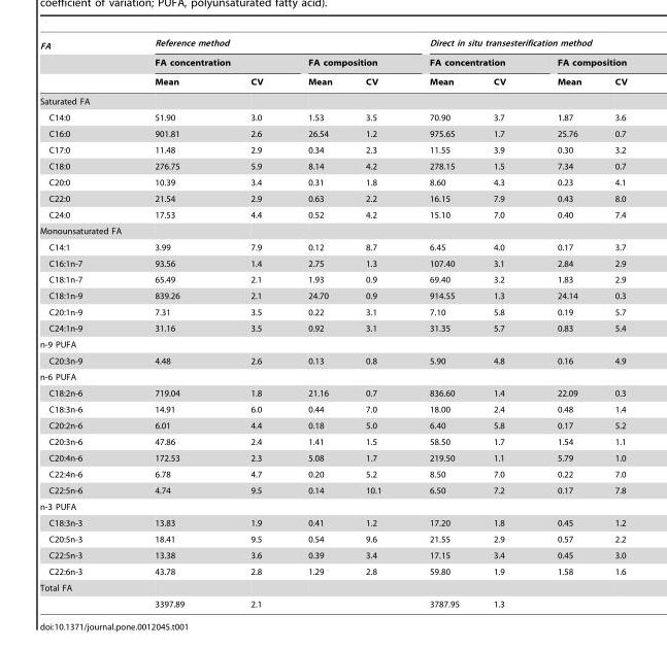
<table><thead><tr><td rowspan="3">FA</td><td colspan="4">Reference method</td><td colspan="4">Direct in situ transesterification method</td></tr><tr><td colspan="2">FA concentration</td><td colspan="2">FA composition</td><td colspan="2">FA concentration</td><td colspan="2">FA composition</td></tr><tr><td>Mean</td><td>CV</td><td>Mean</td><td>CV</td><td>Mean</td><td>CV</td><td>Mean</td><td>CV</td></tr></thead><tbody><tr><td colspan="9">Saturated FA</td></tr><tr><td>C14:0</td><td>51.90</td><td>3.0</td><td>1.53</td><td>3.5</td><td>70.90</td><td>3.7</td><td>1.87</td><td>3.6</td></tr><tr><td>C16:0</td><td>901.81</td><td>2.6</td><td>26.54</td><td>1.2</td><td>975.65</td><td>1.7</td><td>25.76</td><td>0.7</td></tr><tr><td>C17:0</td><td>11.48</td><td>2.9</td><td>0.34</td><td>2.3</td><td>11.55</td><td>3.9</td><td>0.30</td><td>3.2</td></tr><tr><td>C18:0</td><td>276.75</td><td>5.9</td><td>8.14</td><td>4.2</td><td>278.15</td><td>1.5</td><td>7.34</td><td>0.7</td></tr><tr><td>C20:0</td><td>10.39</td><td>3.4</td><td>0.31</td><td>1.8</td><td>8.60</td><td>4.3</td><td>0.23</td><td>4.1</td></tr><tr><td>C22:0</td><td>21.54</td><td>2.9</td><td>0.63</td><td>2.2</td><td>16.15</td><td>7.9</td><td>0.43</td><td>8.0</td></tr><tr><td>C24:0</td><td>17.53</td><td>4.4</td><td>0.52</td><td>4.2</td><td>15.10</td><td>7.0</td><td>0.40</td><td>7.4</td></tr><tr><td colspan="9">Monounsaturated FA</td></tr><tr><td>C14:1</td><td>3.99</td><td>7.9</td><td>0.12</td><td>8.7</td><td>6.45</td><td>4.0</td><td>0.17</td><td>3.7</td></tr><tr><td>C16:1n-7</td><td>93.56</td><td>1.4</td><td>2.75</td><td>1.3</td><td>107.40</td><td>3.1</td><td>2.84</td><td>2.9</td></tr><tr><td>C18:1n-7</td><td>65.49</td><td>2.1</td><td>1.93</td><td>0.9</td><td>69.40</td><td>3.2</td><td>1.83</td><td>2.9</td></tr><tr><td>C18:1n-9</td><td>839.26</td><td>2.1</td><td>24.70</td><td>0.9</td><td>914.55</td><td>1.3</td><td>24.14</td><td>0.3</td></tr><tr><td>C20:1n-9</td><td>7.31</td><td>3.5</td><td>0.22</td><td>3.1</td><td>7.10</td><td>5.8</td><td>0.19</td><td>5.7</td></tr><tr><td>C24:1n-9</td><td>31.16</td><td>3.5</td><td>0.92</td><td>3.1</td><td>31.35</td><td>5.7</td><td>0.83</td><td>5.4</td></tr><tr><td colspan="9">n-9 PUFA</td></tr><tr><td>C20:3n-9</td><td>4.48</td><td>2.6</td><td>0.13</td><td>0.8</td><td>5.90</td><td>4.8</td><td>0.16</td><td>4.9</td></tr><tr><td colspan="9">n-6 PUFA</td></tr><tr><td>C18:2n-6</td><td>719.04</td><td>1.8</td><td>21.16</td><td>0.7</td><td>836.60</td><td>1.4</td><td>22.09</td><td>0.3</td></tr><tr><td>C18:3n-6</td><td>14.91</td><td>6.0</td><td>0.44</td><td>7.0</td><td>18.00</td><td>2.4</td><td>0.48</td><td>1.4</td></tr><tr><td>C20:2n-6</td><td>6.01</td><td>4.4</td><td>0.18</td><td>5.0</td><td>6.40</td><td>5.8</td><td>0.17</td><td>5.2</td></tr><tr><td>C20:3n-6</td><td>47.86</td><td>2.4</td><td>1.41</td><td>1.5</td><td>58.50</td><td>1.7</td><td>1.54</td><td>1.1</td></tr><tr><td>C20:4n-6</td><td>172.53</td><td>2.3</td><td>5.08</td><td>1.7</td><td>219.50</td><td>1.1</td><td>5.79</td><td>1.0</td></tr><tr><td>C22:4n-6</td><td>6.78</td><td>4.7</td><td>0.20</td><td>5.2</td><td>8.50</td><td>7.0</td><td>0.22</td><td>7.0</td></tr><tr><td>C22:5n-6</td><td>4.74</td><td>9.5</td><td>0.14</td><td>10.1</td><td>6.50</td><td>7.2</td><td>0.17</td><td>7.8</td></tr><tr><td colspan="9">n-3 PUFA</td></tr><tr><td>C18:3n-3</td><td>13.83</td><td>1.9</td><td>0.41</td><td>1.2</td><td>17.20</td><td>1.8</td><td>0.45</td><td>1.2</td></tr><tr><td>C20:5n-3</td><td>18.41</td><td>9.5</td><td>0.54</td><td>9.6</td><td>21.55</td><td>2.9</td><td>0.57</td><td>2.2</td></tr><tr><td>C22:5n-3</td><td>13.38</td><td>3.6</td><td>0.39</td><td>3.4</td><td>17.15</td><td>3.4</td><td>0.45</td><td>3.0</td></tr><tr><td>C22:6n-3</td><td>43.78</td><td>2.8</td><td>1.29</td><td>2.8</td><td>59.80</td><td>1.9</td><td>1.58</td><td>1.6</td></tr><tr><td colspan="9">Total FA</td></tr><tr><td></td><td>3397.89</td><td>2.1</td><td></td><td></td><td>3787.95</td><td>1.3</td><td></td><td></td></tr></tbody></table>